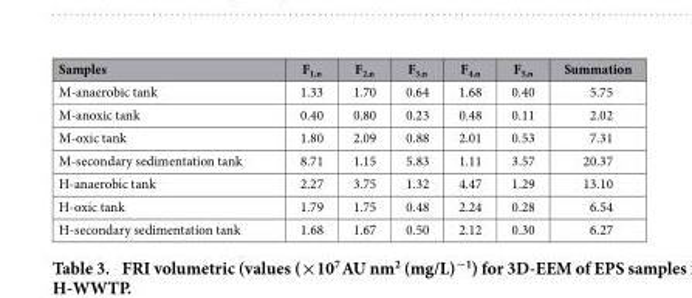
<table><thead><tr><td>Samples</td><td>F<sub>1,n</sub></td><td>F<sub>2,n</sub></td><td>F<sub>3,n</sub></td><td>F<sub>4,n</sub></td><td>F<sub>5,n</sub></td><td>Summation</td></tr></thead><tbody><tr><td>M-anaerobic tank</td><td>1.33</td><td>1.70</td><td>0.64</td><td>1.68</td><td>0.40</td><td>5.75</td></tr><tr><td>M-anoxic tank</td><td>0.40</td><td>0.80</td><td>0.23</td><td>0.48</td><td>0.11</td><td>2.02</td></tr><tr><td>M-oxic tank</td><td>1.80</td><td>2.09</td><td>0.88</td><td>2.01</td><td>0.53</td><td>7.31</td></tr><tr><td>M-secondary sedimentation tank</td><td>8.71</td><td>1.15</td><td>5.83</td><td>1.11</td><td>3.57</td><td>20.37</td></tr><tr><td>H-anaerobic tank</td><td>2.27</td><td>3.75</td><td>1.32</td><td>4.47</td><td>1.29</td><td>13.10</td></tr><tr><td>H-oxic tank</td><td>1.79</td><td>1.75</td><td>0.48</td><td>2.24</td><td>0.28</td><td>6.54</td></tr><tr><td>H-secondary sedimentation tank</td><td>1.68</td><td>1.67</td><td>0.50</td><td>2.12</td><td>0.30</td><td>6.27</td></tr></tbody></table>